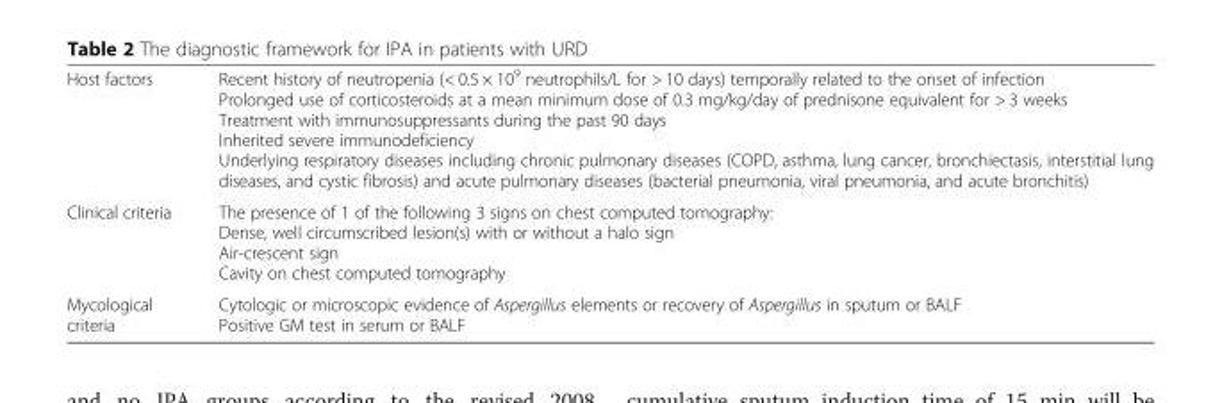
<table><tbody><tr><td>Host factors</td><td>Recent history of neutropenia (&lt; 0.5 × 10<sup>9</sup> neutrophils/L for &gt; 10 days) temporally related to the onset of infection Prolonged use of corticosteroids at a mean minimum dose of 0.3 mg/kg/day of prednisone equivalent for &gt; 3 weeks Treatment with immunosuppressants during the past 90 days Inherited severe immunodeficiency Underlying respiratory diseases including chronic pulmonary diseases (COPD, asthma, lung cancer, bronchiectasis, interstitial lung diseases, and cystic fibrosis) and acute pulmonary diseases (bacterial pneumonia, viral pneumonia, and acute bronchitis)</td></tr><tr><td>Clinical criteria</td><td>The presence of 1 of the following 3 signs on chest computed tomography: Dense, well circumscribed lesion(s) with or without a halo sign Air-crescent sign Cavity on chest computed tomography</td></tr><tr><td>Mycological criteria</td><td>Cytologic or microscopic evidence of Aspergillus elements or recovery of Aspergillus in sputum or BALF Positive GM test in serum or BALF</td></tr></tbody></table>